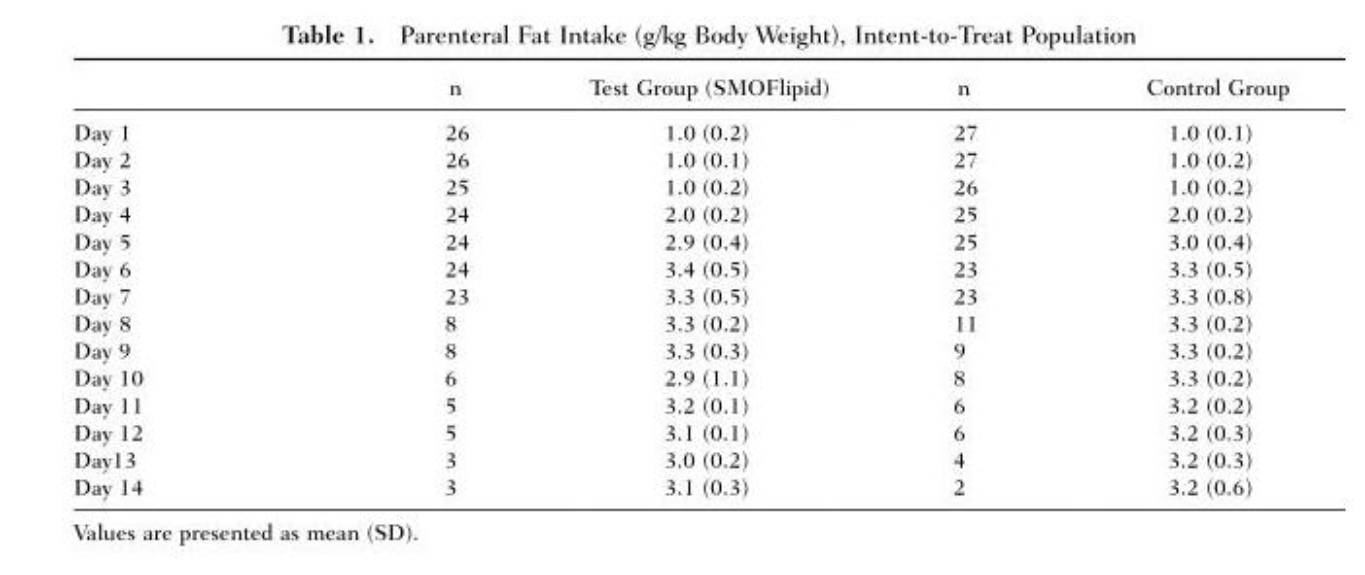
<table><thead><tr><td></td><td>n</td><td>Test Group (SMOFlipid)</td><td>n</td><td>Control Group</td></tr></thead><tbody><tr><td>Day 1</td><td>26</td><td>1.0 (0.2)</td><td>27</td><td>1.0 (0.1)</td></tr><tr><td>Day 2</td><td>26</td><td>1.0 (0.1)</td><td>27</td><td>1.0 (0.2)</td></tr><tr><td>Day 3</td><td>25</td><td>1.0 (0.2)</td><td>26</td><td>1.0 (0.2)</td></tr><tr><td>Day 4</td><td>24</td><td>2.0 (0.2)</td><td>25</td><td>2.0 (0.2)</td></tr><tr><td>Day 5</td><td>24</td><td>2.9 (0.4)</td><td>25</td><td>3.0 (0.4)</td></tr><tr><td>Day 6</td><td>24</td><td>3.4 (0.5)</td><td>23</td><td>3.3 (0.5)</td></tr><tr><td>Day 7</td><td>23</td><td>3.3 (0.5)</td><td>23</td><td>3.3 (0.8)</td></tr><tr><td>Day 8</td><td>8</td><td>3.3 (0.2)</td><td>11</td><td>3.3 (0.2)</td></tr><tr><td>Day 9</td><td>8</td><td>3.3 (0.3)</td><td>9</td><td>3.3 (0.2)</td></tr><tr><td>Day 10</td><td>6</td><td>2.9 (1.1)</td><td>8</td><td>3.3 (0.2)</td></tr><tr><td>Day 11</td><td>5</td><td>3.2 (0.1)</td><td>6</td><td>3.2 (0.2)</td></tr><tr><td>Day 12</td><td>5</td><td>3.1 (0.1)</td><td>6</td><td>3.2 (0.3)</td></tr><tr><td>Day13</td><td>3</td><td>3.0 (0.2)</td><td>4</td><td>3.2 (0.3)</td></tr><tr><td>Day 14</td><td>3</td><td>3.1 (0.3)</td><td>2</td><td>3.2 (0.6)</td></tr></tbody></table>